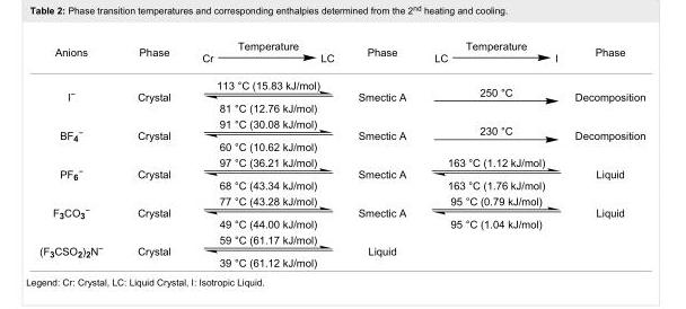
<table><tbody><tr><td>Anions</td><td>Phase</td><td>Temperature Cr LC</td><td>Phase</td><td>Temperature LC I</td><td>Phase</td></tr><tr><td>I<sup>−</sup></td><td>Crystal</td><td>113 °C (15.83 kJ/mol) 81 °C (12.76 kJ/mol)</td><td>Smectic A</td><td>250 °C</td><td>Decomposition</td></tr><tr><td>BF<sub>4</sub><sup>−</sup></td><td>Crystal</td><td>91 °C (30.08 kJ/mol) 60 °C (10.62 kJ/mol)</td><td>Smectic A</td><td>230 °C</td><td>Decomposition</td></tr><tr><td>PF<sub>6</sub><sup>−</sup></td><td>Crystal</td><td>97 °C (36.21 kJ/mol) 68 °C (43.34 kJ/mol)</td><td>Smectic A</td><td>163 °C (1.12 kJ/mol) 163 °C (1.76 kJ/mol)</td><td>Liquid</td></tr><tr><td>F<sub>3</sub>CO<sub>3</sub><sup>−</sup></td><td>Crystal</td><td>77 °C (43.28 kJ/mol) 49 °C (44.00 kJ/mol)</td><td>Smectic A</td><td>95 °C (0.79 kJ/mol) 95 °C (1.04 kJ/mol)</td><td>Liquid</td></tr><tr><td>(F<sub>3</sub>CSO<sub>2</sub>)<sub>2</sub>N<sup>−</sup></td><td>Crystal</td><td>59 °C (61.17 kJ/mol) 39 °C (61.12 kJ/mol)</td><td>Liquid</td><td></td><td></td></tr></tbody></table>